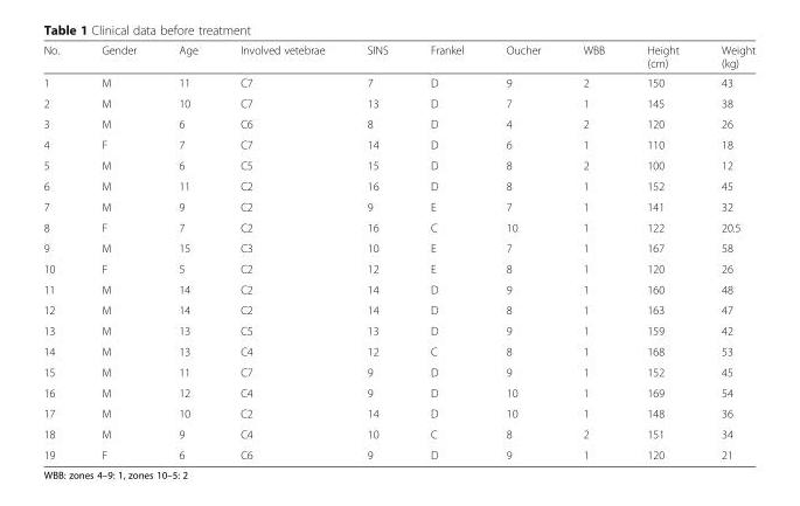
<table><thead><tr><td>No.</td><td>Gender</td><td>Age</td><td>Involved vetebrae</td><td>SINS</td><td>Frankel</td><td>Oucher</td><td>WBB</td><td>Height (cm)</td><td>Weight (kg)</td></tr></thead><tbody><tr><td>1</td><td>M</td><td>11</td><td>C7</td><td>7</td><td>D</td><td>9</td><td>2</td><td>150</td><td>43</td></tr><tr><td>2</td><td>M</td><td>10</td><td>C7</td><td>13</td><td>D</td><td>7</td><td>1</td><td>145</td><td>38</td></tr><tr><td>3</td><td>M</td><td>6</td><td>C6</td><td>8</td><td>D</td><td>4</td><td>2</td><td>120</td><td>26</td></tr><tr><td>4</td><td>F</td><td>7</td><td>C7</td><td>14</td><td>D</td><td>6</td><td>1</td><td>110</td><td>18</td></tr><tr><td>5</td><td>M</td><td>6</td><td>C5</td><td>15</td><td>D</td><td>8</td><td>2</td><td>100</td><td>12</td></tr><tr><td>6</td><td>M</td><td>11</td><td>C2</td><td>16</td><td>D</td><td>8</td><td>1</td><td>152</td><td>45</td></tr><tr><td>7</td><td>M</td><td>9</td><td>C2</td><td>9</td><td>E</td><td>7</td><td>1</td><td>141</td><td>32</td></tr><tr><td>8</td><td>F</td><td>7</td><td>C2</td><td>16</td><td>C</td><td>10</td><td>1</td><td>122</td><td>20.5</td></tr><tr><td>9</td><td>M</td><td>15</td><td>C3</td><td>10</td><td>E</td><td>7</td><td>1</td><td>167</td><td>58</td></tr><tr><td>10</td><td>F</td><td>5</td><td>C2</td><td>12</td><td>E</td><td>8</td><td>1</td><td>120</td><td>26</td></tr><tr><td>11</td><td>M</td><td>14</td><td>C2</td><td>14</td><td>D</td><td>9</td><td>1</td><td>160</td><td>48</td></tr><tr><td>12</td><td>M</td><td>14</td><td>C2</td><td>14</td><td>D</td><td>8</td><td>1</td><td>163</td><td>47</td></tr><tr><td>13</td><td>M</td><td>13</td><td>C5</td><td>13</td><td>D</td><td>9</td><td>1</td><td>159</td><td>42</td></tr><tr><td>14</td><td>M</td><td>13</td><td>C4</td><td>12</td><td>C</td><td>8</td><td>1</td><td>168</td><td>53</td></tr><tr><td>15</td><td>M</td><td>11</td><td>C7</td><td>9</td><td>D</td><td>9</td><td>1</td><td>152</td><td>45</td></tr><tr><td>16</td><td>M</td><td>12</td><td>C4</td><td>9</td><td>D</td><td>10</td><td>1</td><td>169</td><td>54</td></tr><tr><td>17</td><td>M</td><td>10</td><td>C2</td><td>14</td><td>D</td><td>10</td><td>1</td><td>148</td><td>36</td></tr><tr><td>18</td><td>M</td><td>9</td><td>C4</td><td>10</td><td>C</td><td>8</td><td>2</td><td>151</td><td>34</td></tr><tr><td>19</td><td>F</td><td>6</td><td>C6</td><td>9</td><td>D</td><td>9</td><td>1</td><td>120</td><td>21</td></tr></tbody></table>